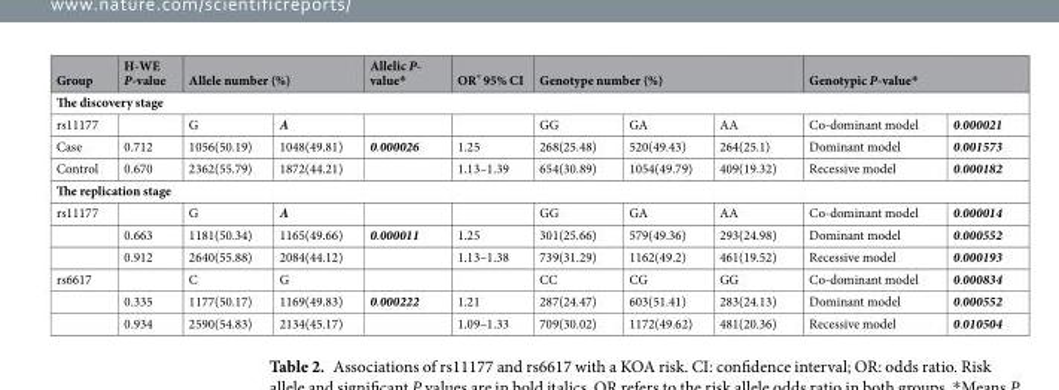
<table><thead><tr><td>Group</td><td>H-WE P-value</td><td colspan="2">Allele number (%)</td><td>Allelic P- value*</td><td>OR* 95% CI</td><td colspan="3">Genotype number (%)</td><td colspan="2">Genotypic P-value*</td></tr><tr><td colspan="11">The discovery stage</td></tr><tr><td>rs11177</td><td></td><td>G</td><td>A</td><td></td><td></td><td>GG</td><td>GA</td><td>AA</td><td>Co-dominant model</td><td>0.000021</td></tr></thead><tbody><tr><td>Case</td><td>0.712</td><td>1056(50.19)</td><td>1048(49.81)</td><td>0.000026</td><td>1.25</td><td>268(25.48)</td><td>520(49.43)</td><td>264(25.1)</td><td>Dominant model</td><td>0.001573</td></tr><tr><td>Control</td><td>0.670</td><td>2362(55.79)</td><td>1872(44.21)</td><td></td><td>1.13–1.39</td><td>654(30.89)</td><td>1054(49.79)</td><td>409(19.32)</td><td>Recessive model</td><td>0.000182</td></tr><tr><td colspan="11">The replication stage</td></tr><tr><td rowspan="3">rs11177</td><td></td><td>G</td><td>A</td><td></td><td></td><td>GG</td><td>GA</td><td>AA</td><td>Co-dominant model</td><td>0.000014</td></tr><tr><td>0.663</td><td>1181(50.34)</td><td>1165(49.66)</td><td>0.000011</td><td>1.25</td><td>301(25.66)</td><td>579(49.36)</td><td>293(24.98)</td><td>Dominant model</td><td>0.000552</td></tr><tr><td>0.912</td><td>2640(55.88)</td><td>2084(44.12)</td><td></td><td>1.13–1.38</td><td>739(31.29)</td><td>1162(49.2)</td><td>461(19.52)</td><td>Recessive model</td><td>0.000193</td></tr><tr><td rowspan="3">rs6617</td><td></td><td>C</td><td>G</td><td></td><td></td><td>CC</td><td>CG</td><td>GG</td><td>Co-dominant model</td><td>0.000834</td></tr><tr><td>0.335</td><td>1177(50.17)</td><td>1169(49.83)</td><td>0.000222</td><td>1.21</td><td>287(24.47)</td><td>603(51.41)</td><td>283(24.13)</td><td>Dominant model</td><td>0.000552</td></tr><tr><td>0.934</td><td>2590(54.83)</td><td>2134(45.17)</td><td></td><td>1.09–1.33</td><td>709(30.02)</td><td>1172(49.62)</td><td>481(20.36)</td><td>Recessive model</td><td>0.010504</td></tr></tbody></table>